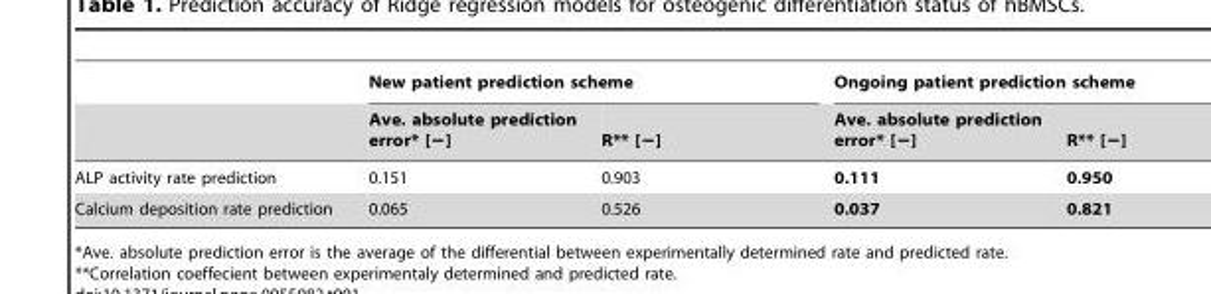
<table><thead><tr><td rowspan="2"></td><td colspan="2">New patient prediction scheme</td><td colspan="2">Ongoing patient prediction scheme</td></tr><tr><td>Ave. absolute prediction error* [−]</td><td>R** [−]</td><td>Ave. absolute prediction error* [−]</td><td>R** [−]</td></tr></thead><tbody><tr><td>ALP activity rate prediction</td><td>0.151</td><td>0.903</td><td>0.111</td><td>0.950</td></tr><tr><td>Calcium deposition rate prediction</td><td>0.065</td><td>0.526</td><td>0.037</td><td>0.821</td></tr></tbody></table>